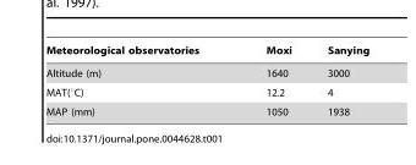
<table><thead><tr><td>Meteorological observatories</td><td>Moxi</td><td>Sanying</td></tr></thead><tbody><tr><td>Altitude (m)</td><td>1640</td><td>3000</td></tr><tr><td>MAT(°C)</td><td>12.2</td><td>4</td></tr><tr><td>MAP (mm)</td><td>1050</td><td>1938</td></tr></tbody></table>